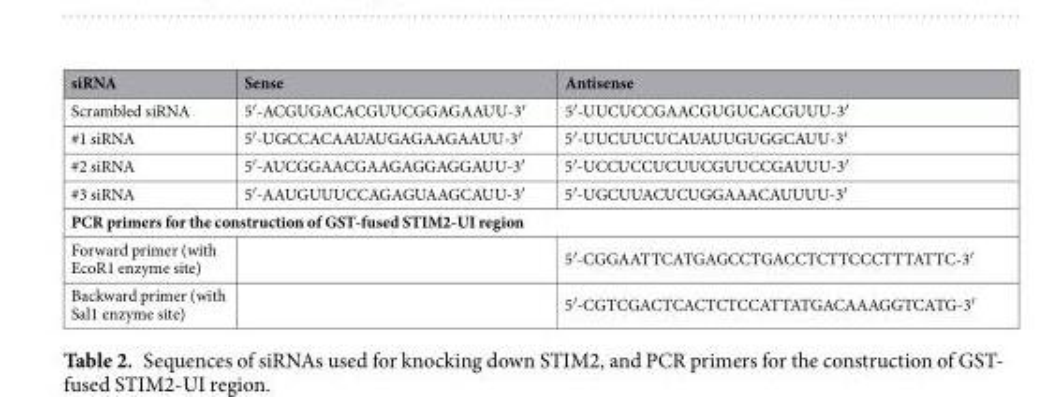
<table><thead><tr><td>siRNA</td><td>Sense</td><td>Antisense</td></tr></thead><tbody><tr><td>Scrambled siRNA</td><td>5′-ACGUGACACGUUCGGAGAAUU-3′</td><td>5′-UUCUCCGAACGUGUCACGUUU-3′</td></tr><tr><td>#1 siRNA</td><td>5′-UGCCACAAUAUGAGAAGAAUU-3′</td><td>5′-UUCUUCUCAUAUUGUGGCAUU-3′</td></tr><tr><td>#2 siRNA</td><td>5′-AUCGGAACGAAGAGGAGGAUU-3′</td><td>5′-UCCUCCUCUUCGUUCCGAUUU-3′</td></tr><tr><td>#3 siRNA</td><td>5′-AAUGUUUCCAGAGUAAGCAUU-3′</td><td>5′-UGCUUACUCUGGAAACAUUUU-3′</td></tr><tr><td colspan="3">PCR primers for the construction of GST-fused STIM2-UI region</td></tr><tr><td>Forward primer (with EcoR1 enzyme site)</td><td></td><td>5′-CGGAATTCATGAGCCTGACCTCTTCCCTTTATTC-3′</td></tr><tr><td>Backward primer (with Sal1 enzyme site)</td><td></td><td>5′-CGTCGACTCACTCTCCATTATGACAAAGGTCATG-3′</td></tr></tbody></table>